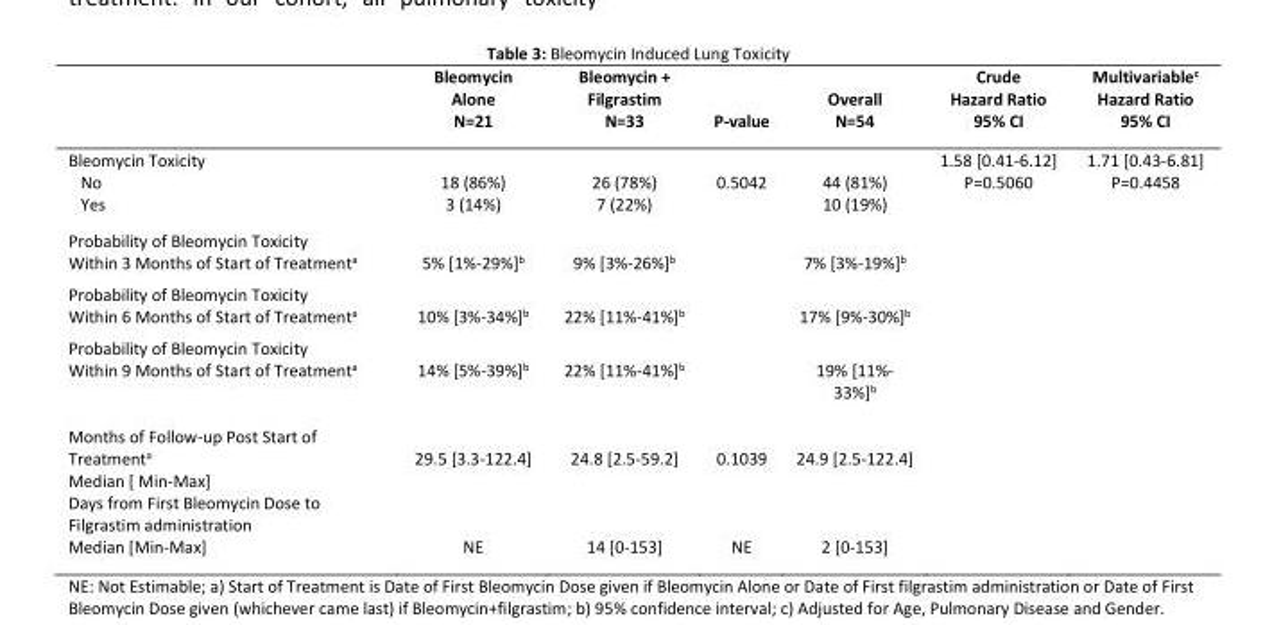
<table><thead><tr><td></td><td>Bleomycin Alone N=21</td><td>Bleomycin + Filgrastim N=33</td><td>P-value</td><td>Overall N=54</td><td>Crude Hazard Ratio 95% CI</td><td>Multivariablec Hazard Ratio 95% CI</td></tr></thead><tbody><tr><td>Bleomycin Toxicity No Yes</td><td>18 (86%) 3 (14%)</td><td>26 (78%) 7 (22%)</td><td rowspan="4">0.5042</td><td>44 (81%) 10 (19%)</td><td rowspan="4">1.58 [0.41-6.12] P=0.5060</td><td rowspan="4">1.71 [0.43-6.81] P=0.4458</td></tr><tr><td>Probability of Bleomycin Toxicity Within 3 Months of Start of Treatment<sup>a</sup></td><td>5% [1%-29%]<sup>b</sup></td><td>9% [3%-26%]<sup>b</sup></td><td>7% [3%-19%]<sup>b</sup></td></tr><tr><td>Probability of Bleomycin Toxicity Within 6 Months of Start of Treatment<sup>a</sup></td><td>10% [3%-34%]<sup>b</sup></td><td>22% [11%-41%]<sup>b</sup></td><td>17% [9%-30%]<sup>b</sup></td></tr><tr><td>Probability of Bleomycin Toxicity Within 9 Months of Start of Treatment<sup>a</sup></td><td>14% [5%-39%]<sup>b</sup></td><td>22% [11%-41%]<sup>b</sup></td><td>19% [11%- 33%]<sup>b</sup></td></tr><tr><td>Months of Follow-up Post Start of Treatment<sup>a</sup> Median [ Min-Max]</td><td>29.5 [3.3-122.4]</td><td>24.8 [2.5-59.2]</td><td>0.1039</td><td>24.9 [2.5-122.4]</td><td></td><td></td></tr><tr><td>Days from First Bleomycin Dose to Filgrastim administration Median [Min-Max]</td><td>NE</td><td>14 [0-153]</td><td>NE</td><td>2 [0-153]</td><td></td><td></td></tr></tbody></table>